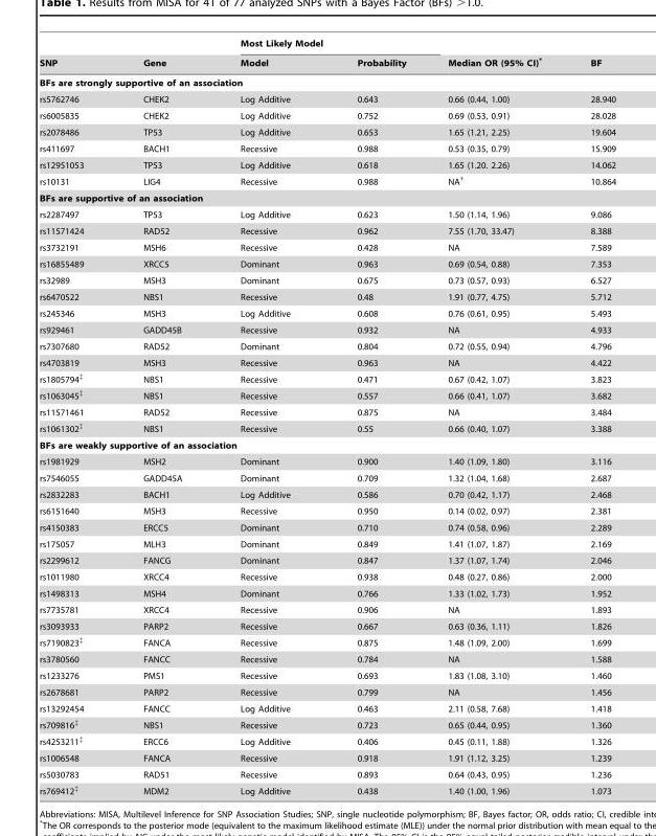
<table><thead><tr><td rowspan="2">SNP</td><td rowspan="2">Gene</td><td colspan="2">Most Likely Model</td><td rowspan="2">Median OR (95% CI)*</td><td rowspan="2">BF</td></tr><tr><td>Model</td><td>Probability</td></tr></thead><tbody><tr><td colspan="6">BFs are strongly supportive of an association</td></tr><tr><td>rs5762746</td><td>CHEK2</td><td>Log Additive</td><td>0.643</td><td>0.66 (0.44, 1.00)</td><td>28.940</td></tr><tr><td>rs6005835</td><td>CHEK2</td><td>Log Additive</td><td>0.752</td><td>0.69 (0.53, 0.91)</td><td>28.028</td></tr><tr><td>rs2078486</td><td>TP53</td><td>Log Additive</td><td>0.653</td><td>1.65 (1.21, 2.25)</td><td>19.604</td></tr><tr><td>rs411697</td><td>BACH1</td><td>Recessive</td><td>0.988</td><td>0.53 (0.35, 0.79)</td><td>15.909</td></tr><tr><td>rs12951053</td><td>TP53</td><td>Log Additive</td><td>0.618</td><td>1.65 (1.20. 2.26)</td><td>14.062</td></tr><tr><td>rs10131</td><td>LIG4</td><td>Recessive</td><td>0.988</td><td>NA†</td><td>10.864</td></tr><tr><td colspan="6">BFs are supportive of an association</td></tr><tr><td>rs2287497</td><td>TP53</td><td>Log Additive</td><td>0.623</td><td>1.50 (1.14, 1.96)</td><td>9.086</td></tr><tr><td>rs11571424</td><td>RAD52</td><td>Recessive</td><td>0.962</td><td>7.55 (1.70, 33.47)</td><td>8.388</td></tr><tr><td>rs3732191</td><td>MSH6</td><td>Recessive</td><td>0.428</td><td>NA</td><td>7.589</td></tr><tr><td>rs16855489</td><td>XRCC5</td><td>Dominant</td><td>0.963</td><td>0.69 (0.54, 0.88)</td><td>7.353</td></tr><tr><td>rs32989</td><td>MSH3</td><td>Dominant</td><td>0.675</td><td>0.73 (0.57, 0.93)</td><td>6.527</td></tr><tr><td>rs6470522</td><td>NBS1</td><td>Recessive</td><td>0.48</td><td>1.91 (0.77, 4.75)</td><td>5.712</td></tr><tr><td>rs245346</td><td>MSH3</td><td>Log Additive</td><td>0.608</td><td>0.76 (0.61, 0.95)</td><td>5.493</td></tr><tr><td>rs929461</td><td>GADD45B</td><td>Recessive</td><td>0.932</td><td>NA</td><td>4.933</td></tr><tr><td>rs7307680</td><td>RAD52</td><td>Dominant</td><td>0.804</td><td>0.72 (0.55, 0.94)</td><td>4.796</td></tr><tr><td>rs4703819</td><td>MSH3</td><td>Recessive</td><td>0.963</td><td>NA</td><td>4.422</td></tr><tr><td>rs1805794‡</td><td>NBS1</td><td>Recessive</td><td>0.471</td><td>0.67 (0.42, 1.07)</td><td>3.823</td></tr><tr><td>rs1063045‡</td><td>NBS1</td><td>Recessive</td><td>0.557</td><td>0.66 (0.41, 1.07)</td><td>3.682</td></tr><tr><td>rs11571461</td><td>RAD52</td><td>Recessive</td><td>0.875</td><td>NA</td><td>3.484</td></tr><tr><td>rs1061302‡</td><td>NBS1</td><td>Recessive</td><td>0.55</td><td>0.66 (0.40, 1.07)</td><td>3.388</td></tr><tr><td colspan="6">BFs are weakly supportive of an association</td></tr><tr><td>rs1981929</td><td>MSH2</td><td>Dominant</td><td>0.900</td><td>1.40 (1.09, 1.80)</td><td>3.116</td></tr><tr><td>rs7546055</td><td>GADD45A</td><td>Dominant</td><td>0.709</td><td>1.32 (1.04, 1.68)</td><td>2.687</td></tr><tr><td>rs2832283</td><td>BACH1</td><td>Log Additive</td><td>0.586</td><td>0.70 (0.42, 1.17)</td><td>2.468</td></tr><tr><td>rs6151640</td><td>MSH3</td><td>Recessive</td><td>0.950</td><td>0.14 (0.02, 0.97)</td><td>2.381</td></tr><tr><td>rs4150383</td><td>ERCC5</td><td>Dominant</td><td>0.710</td><td>0.74 (0.58, 0.96)</td><td>2.289</td></tr><tr><td>rs175057</td><td>MLH3</td><td>Dominant</td><td>0.849</td><td>1.41 (1.07, 1.87)</td><td>2.169</td></tr><tr><td>rs2299612</td><td>FANCG</td><td>Dominant</td><td>0.847</td><td>1.37 (1.07, 1.74)</td><td>2.046</td></tr><tr><td>rs1011980</td><td>XRCC4</td><td>Recessive</td><td>0.938</td><td>0.48 (0.27, 0.86)</td><td>2.000</td></tr><tr><td>rs1498313</td><td>MSH4</td><td>Dominant</td><td>0.766</td><td>1.33 (1.02, 1.73)</td><td>1.952</td></tr><tr><td>rs7735781</td><td>XRCC4</td><td>Recessive</td><td>0.906</td><td>NA</td><td>1.893</td></tr><tr><td>rs3093933</td><td>PARP2</td><td>Recessive</td><td>0.667</td><td>0.63 (0.36, 1.11)</td><td>1.826</td></tr><tr><td>rs7190823‡</td><td>FANCA</td><td>Recessive</td><td>0.875</td><td>1.48 (1.09, 2.00)</td><td>1.699</td></tr><tr><td>rs3780560</td><td>FANCC</td><td>Recessive</td><td>0.784</td><td>NA</td><td>1.588</td></tr><tr><td>rs1233276</td><td>PMS1</td><td>Recessive</td><td>0.693</td><td>1.83 (1.08, 3.10)</td><td>1.460</td></tr><tr><td>rs2678681</td><td>PARP2</td><td>Recessive</td><td>0.799</td><td>NA</td><td>1.456</td></tr><tr><td>rs13292454</td><td>FANCC</td><td>Log Additive</td><td>0.463</td><td>2.11 (0.58, 7.68)</td><td>1.418</td></tr><tr><td>rs709816‡</td><td>NBS1</td><td>Recessive</td><td>0.723</td><td>0.65 (0.44, 0.95)</td><td>1.360</td></tr><tr><td>rs4253211‡</td><td>ERCC6</td><td>Log Additive</td><td>0.406</td><td>0.45 (0.11, 1.88)</td><td>1.326</td></tr><tr><td>rs1006548</td><td>FANCA</td><td>Recessive</td><td>0.918</td><td>1.91 (1.12, 3.25)</td><td>1.239</td></tr><tr><td>rs5030783</td><td>RAD51</td><td>Recessive</td><td>0.893</td><td>0.64 (0.43, 0.95)</td><td>1.236</td></tr><tr><td>rs769412‡</td><td>MDM2</td><td>Log Additive</td><td>0.438</td><td>1.40 (1.00, 1.96)</td><td>1.073</td></tr></tbody></table>